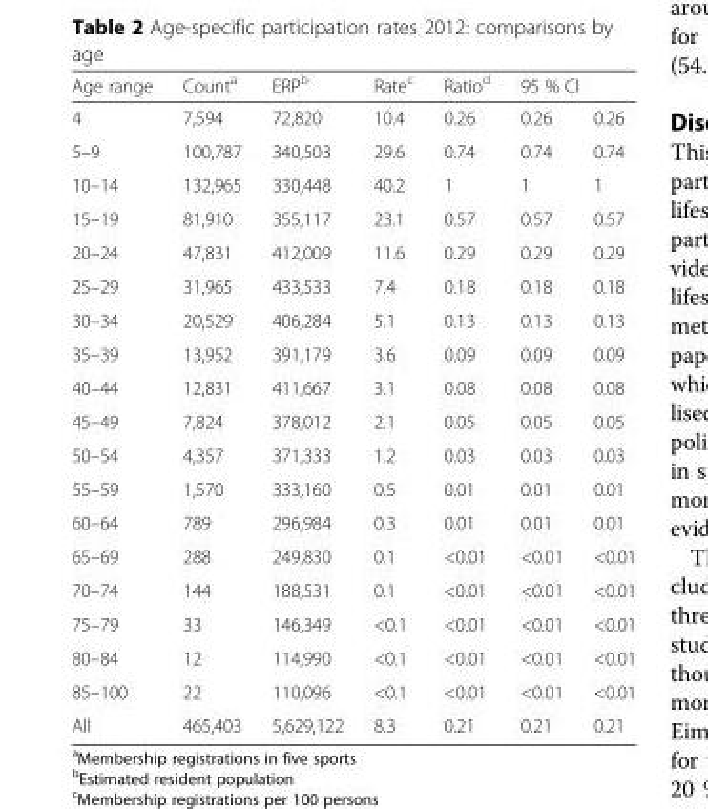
<table><thead><tr><td rowspan="2">Age range 4</td><td rowspan="2">Count<sup>a</sup> 7,594</td><td rowspan="2">ERP<sup>b</sup> 72,820</td><td rowspan="2">Rate<sup>c</sup> 10.4</td><td rowspan="2">Ratio<sup>d</sup> 0.26</td><td colspan="2">95 % CI</td></tr><tr><td>0.26</td><td>0.26</td></tr></thead><tbody><tr><td>5–9</td><td>100,787</td><td>340,503</td><td>29.6</td><td>0.74</td><td>0.74</td><td>0.74</td></tr><tr><td>10–14</td><td>132,965</td><td>330,448</td><td>40.2</td><td>1</td><td>1</td><td>1</td></tr><tr><td>15–19</td><td>81,910</td><td>355,117</td><td>23.1</td><td>0.57</td><td>0.57</td><td>0.57</td></tr><tr><td>20–24</td><td>47,831</td><td>412,009</td><td>11.6</td><td>0.29</td><td>0.29</td><td>0.29</td></tr><tr><td>25–29</td><td>31,965</td><td>433,533</td><td>7.4</td><td>0.18</td><td>0.18</td><td>0.18</td></tr><tr><td>30–34</td><td>20,529</td><td>406,284</td><td>5.1</td><td>0.13</td><td>0.13</td><td>0.13</td></tr><tr><td>35–39</td><td>13,952</td><td>391,179</td><td>3.6</td><td>0.09</td><td>0.09</td><td>0.09</td></tr><tr><td>40–44</td><td>12,831</td><td>411,667</td><td>3.1</td><td>0.08</td><td>0.08</td><td>0.08</td></tr><tr><td>45–49</td><td>7,824</td><td>378,012</td><td>2.1</td><td>0.05</td><td>0.05</td><td>0.05</td></tr><tr><td>50–54</td><td>4,357</td><td>371,333</td><td>1.2</td><td>0.03</td><td>0.03</td><td>0.03</td></tr><tr><td>55–59</td><td>1,570</td><td>333,160</td><td>0.5</td><td>0.01</td><td>0.01</td><td>0.01</td></tr><tr><td>60–64</td><td>789</td><td>296,984</td><td>0.3</td><td>0.01</td><td>0.01</td><td>0.01</td></tr><tr><td>65–69</td><td>288</td><td>249,830</td><td>0.1</td><td>&lt;0.01</td><td>&lt;0.01</td><td>&lt;0.01</td></tr><tr><td>70–74</td><td>144</td><td>188,531</td><td>0.1</td><td>&lt;0.01</td><td>&lt;0.01</td><td>&lt;0.01</td></tr><tr><td>75–79</td><td>33</td><td>146,349</td><td>&lt;0.1</td><td>&lt;0.01</td><td>&lt;0.01</td><td>&lt;0.01</td></tr><tr><td>80–84</td><td>12</td><td>114,990</td><td>&lt;0.1</td><td>&lt;0.01</td><td>&lt;0.01</td><td>&lt;0.01</td></tr><tr><td>85–100</td><td>22</td><td>110,096</td><td>&lt;0.1</td><td>&lt;0.01</td><td>&lt;0.01</td><td>&lt;0.01</td></tr><tr><td>All</td><td>465,403</td><td>5,629,122</td><td>8.3</td><td>0.21</td><td>0.21</td><td>0.21</td></tr></tbody></table>